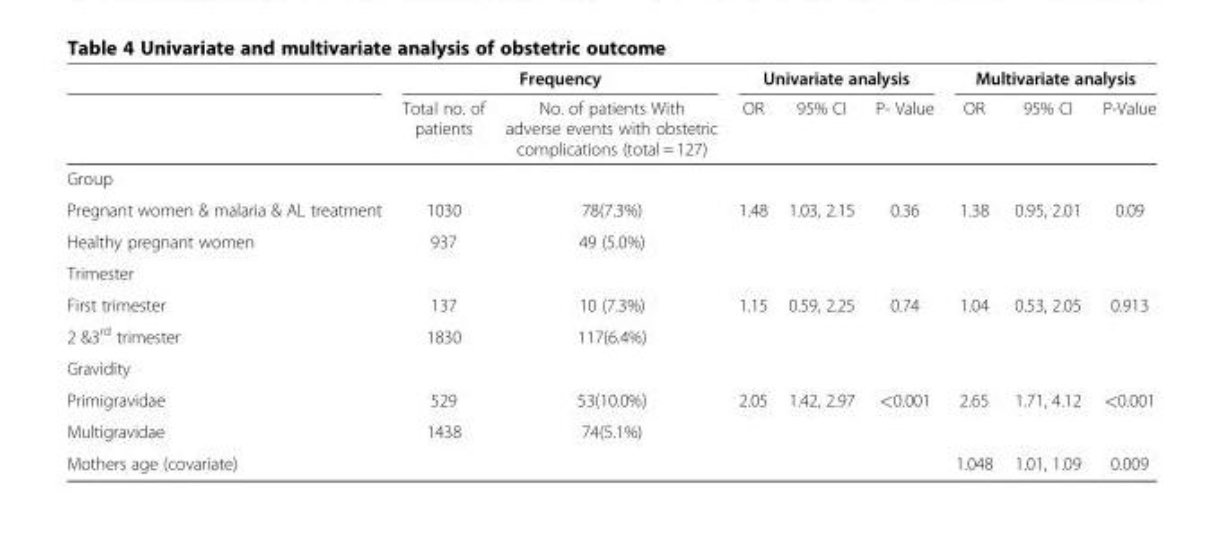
<table><thead><tr><td rowspan="2"></td><td colspan="2">Frequency</td><td colspan="3">Univariate analysis</td><td colspan="3">Multivariate analysis</td></tr><tr><td>Total no. of patients</td><td>No. of patients With adverse events with obstetric complications (total = 127)</td><td>OR</td><td>95% CI</td><td>P- Value</td><td>OR</td><td>95% CI</td><td>P-Value</td></tr></thead><tbody><tr><td colspan="9">Group</td></tr><tr><td>Pregnant women &amp; malaria &amp; AL treatment</td><td>1030</td><td>78(7.3%)</td><td>1.48</td><td>1.03, 2.15</td><td>0.36</td><td>1.38</td><td>0.95, 2.01</td><td>0.09</td></tr><tr><td>Healthy pregnant women</td><td>937</td><td>49 (5.0%)</td><td></td><td></td><td></td><td></td><td></td><td></td></tr><tr><td colspan="9">Trimester</td></tr><tr><td>First trimester</td><td>137</td><td>10 (7.3%)</td><td>1.15</td><td>0.59, 2.25</td><td>0.74</td><td>1.04</td><td>0.53, 2.05</td><td>0.913</td></tr><tr><td>2 &amp;3<sup>rd</sup> trimester</td><td>1830</td><td>117(6.4%)</td><td></td><td></td><td></td><td></td><td></td><td></td></tr><tr><td colspan="9">Gravidity</td></tr><tr><td>Primigravidae</td><td>529</td><td>53(10.0%)</td><td>2.05</td><td>1.42, 2.97</td><td>&lt;0.001</td><td>2.65</td><td>1.71, 4.12</td><td>&lt;0.001</td></tr><tr><td>Multigravidae</td><td>1438</td><td>74(5.1%)</td><td></td><td></td><td></td><td></td><td></td><td></td></tr><tr><td>Mothers age (covariate)</td><td></td><td></td><td></td><td></td><td></td><td>1.048</td><td>1.01, 1.09</td><td>0.009</td></tr></tbody></table>